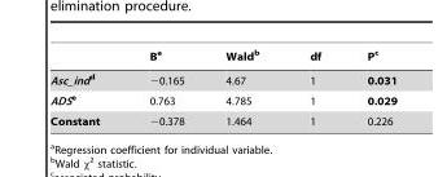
<table><thead><tr><td></td><td>B<sup>a</sup></td><td>Wald<sup>b</sup></td><td>df</td><td>P<sup>c</sup></td></tr></thead><tbody><tr><td>Asc_indd</td><td>−0.165</td><td>4.67</td><td>1</td><td>0.031</td></tr><tr><td>ADSe</td><td>0.763</td><td>4.785</td><td>1</td><td>0.029</td></tr><tr><td>Constant</td><td>−0.378</td><td>1.464</td><td>1</td><td>0.226</td></tr></tbody></table>